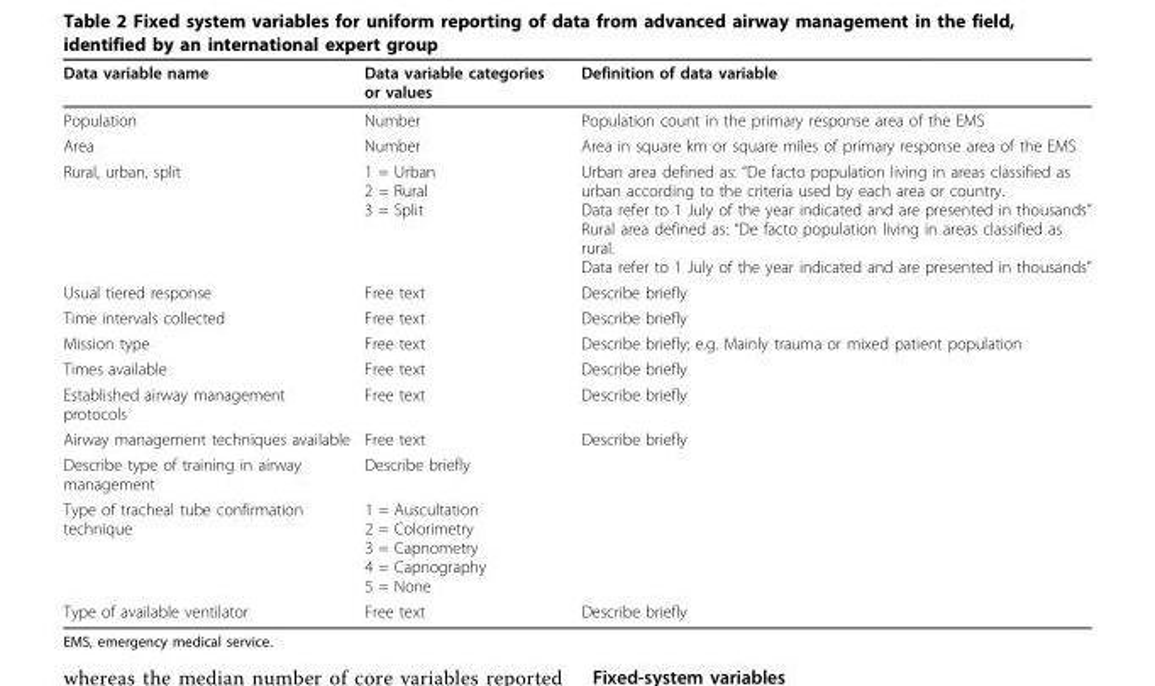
<table><thead><tr><td>Data variable name</td><td>Data variable categories or values</td><td>Definition of data variable</td></tr></thead><tbody><tr><td>Population</td><td>Number</td><td>Population count in the primary response area of the EMS</td></tr><tr><td>Area</td><td>Number</td><td>Area in square km or square miles of primary response area of the EMS</td></tr><tr><td>Rural, urban, split</td><td>1 = Urban 2 = Rural 3 = Split</td><td>Urban area defined as: “De facto population living in areas classified as urban according to the criteria used by each area or country. Data refer to 1 July of the year indicated and are presented in thousands” Rural area defined as: “De facto population living in areas classified as rural. Data refer to 1 July of the year indicated and are presented in thousands”</td></tr><tr><td>Usual tiered response</td><td>Free text</td><td>Describe briefly</td></tr><tr><td>Time intervals collected</td><td>Free text</td><td>Describe briefly</td></tr><tr><td>Mission type</td><td>Free text</td><td>Describe briefly; e.g. Mainly trauma or mixed patient population</td></tr><tr><td>Times available</td><td>Free text</td><td>Describe briefly</td></tr><tr><td>Established airway management protocols</td><td>Free text</td><td>Describe briefly</td></tr><tr><td>Airway management techniques available</td><td>Free text</td><td>Describe briefly</td></tr><tr><td>Describe type of training in airway management</td><td>Describe briefly</td><td></td></tr><tr><td>Type of tracheal tube confirmation technique</td><td>1 = Auscultation 2 = Colorimetry 3 = Capnometry 4 = Capnography 5 = None</td><td></td></tr><tr><td>Type of available ventilator</td><td>Free text</td><td>Describe briefly</td></tr></tbody></table>